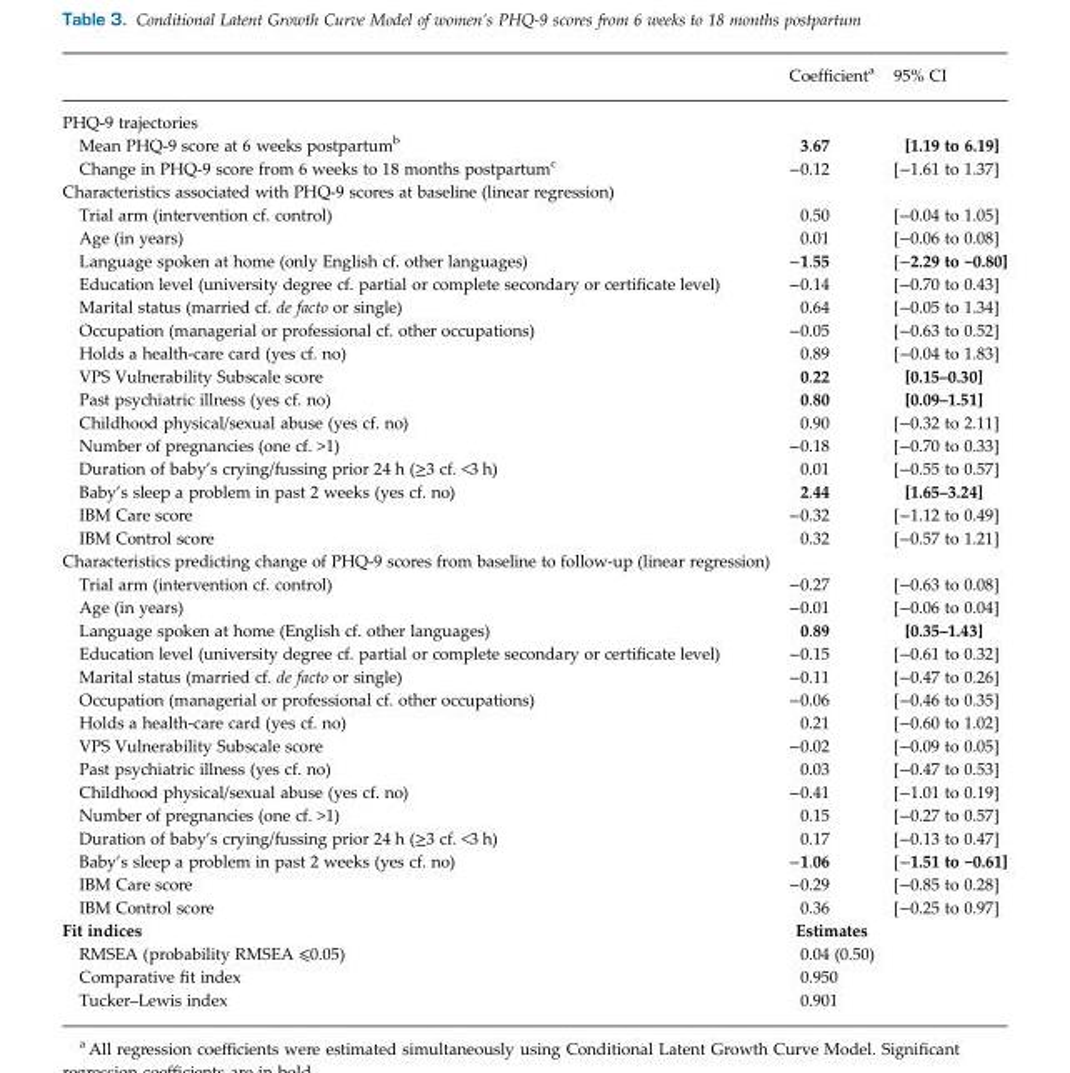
<table><thead><tr><td></td><td>Coefficient<sup>a</sup></td><td>95% CI</td></tr></thead><tbody><tr><td colspan="3">PHQ-9 trajectories</td></tr><tr><td>Mean PHQ-9 score at 6 weeks postpartum<sup>b</sup></td><td>3.67</td><td>[1.19 to 6.19]</td></tr><tr><td>Change in PHQ-9 score from 6 weeks to 18 months postpartum<sup>c</sup></td><td>−0.12</td><td>[−1.61 to 1.37]</td></tr><tr><td colspan="3">Characteristics associated with PHQ-9 scores at baseline (linear regression)</td></tr><tr><td>Trial arm (intervention cf. control)</td><td>0.50</td><td>[−0.04 to 1.05]</td></tr><tr><td>Age (in years)</td><td>0.01</td><td>[−0.06 to 0.08]</td></tr><tr><td>Language spoken at home (only English cf. other languages)</td><td>−1.55</td><td>[−2.29 to −0.80]</td></tr><tr><td>Education level (university degree cf. partial or complete secondary or certificate level)</td><td>−0.14</td><td>[−0.70 to 0.43]</td></tr><tr><td>Marital status (married cf. de facto or single)</td><td>0.64</td><td>[−0.05 to 1.34]</td></tr><tr><td>Occupation (managerial or professional cf. other occupations)</td><td>−0.05</td><td>[−0.63 to 0.52]</td></tr><tr><td>Holds a health-care card (yes cf. no)</td><td>0.89</td><td>[−0.04 to 1.83]</td></tr><tr><td>VPS Vulnerability Subscale score</td><td>0.22</td><td>[0.15–0.30]</td></tr><tr><td>Past psychiatric illness (yes cf. no)</td><td>0.80</td><td>[0.09–1.51]</td></tr><tr><td>Childhood physical/sexual abuse (yes cf. no)</td><td>0.90</td><td>[−0.32 to 2.11]</td></tr><tr><td>Number of pregnancies (one cf. &gt;1)</td><td>−0.18</td><td>[−0.70 to 0.33]</td></tr><tr><td>Duration of baby’s crying/fussing prior 24 h (≥3 cf. &lt;3 h)</td><td>0.01</td><td>[−0.55 to 0.57]</td></tr><tr><td>Baby’s sleep a problem in past 2 weeks (yes cf. no)</td><td>2.44</td><td>[1.65–3.24]</td></tr><tr><td>IBM Care score</td><td>−0.32</td><td>[−1.12 to 0.49]</td></tr><tr><td>IBM Control score</td><td>0.32</td><td>[−0.57 to 1.21]</td></tr><tr><td colspan="3">Characteristics predicting change of PHQ-9 scores from baseline to follow-up (linear regression)</td></tr><tr><td>Trial arm (intervention cf. control)</td><td>−0.27</td><td>[−0.63 to 0.08]</td></tr><tr><td>Age (in years)</td><td>−0.01</td><td>[−0.06 to 0.04]</td></tr><tr><td>Language spoken at home (English cf. other languages)</td><td>0.89</td><td>[0.35–1.43]</td></tr><tr><td>Education level (university degree cf. partial or complete secondary or certificate level)</td><td>−0.15</td><td>[−0.61 to 0.32]</td></tr><tr><td>Marital status (married cf. de facto or single)</td><td>−0.11</td><td>[−0.47 to 0.26]</td></tr><tr><td>Occupation (managerial or professional cf. other occupations)</td><td>−0.06</td><td>[−0.46 to 0.35]</td></tr><tr><td>Holds a health-care card (yes cf. no)</td><td>0.21</td><td>[−0.60 to 1.02]</td></tr><tr><td>VPS Vulnerability Subscale score</td><td>−0.02</td><td>[−0.09 to 0.05]</td></tr><tr><td>Past psychiatric illness (yes cf. no)</td><td>0.03</td><td>[−0.47 to 0.53]</td></tr><tr><td>Childhood physical/sexual abuse (yes cf. no)</td><td>−0.41</td><td>[−1.01 to 0.19]</td></tr><tr><td>Number of pregnancies (one cf. &gt;1)</td><td>0.15</td><td>[−0.27 to 0.57]</td></tr><tr><td>Duration of baby’s crying/fussing prior 24 h (≥3 cf. &lt;3 h)</td><td>0.17</td><td>[−0.13 to 0.47]</td></tr><tr><td>Baby’s sleep a problem in past 2 weeks (yes cf. no)</td><td>−1.06</td><td>[−1.51 to −0.61]</td></tr><tr><td>IBM Care score</td><td>−0.29</td><td>[−0.85 to 0.28]</td></tr><tr><td>IBM Control score</td><td>0.36</td><td>[−0.25 to 0.97]</td></tr><tr><td>Fit indices</td><td>Estimates</td><td></td></tr><tr><td>RMSEA (probability RMSEA ⩽0.05)</td><td>0.04 (0.50)</td><td></td></tr><tr><td>Comparative fit index</td><td>0.950</td><td></td></tr><tr><td>Tucker–Lewis index</td><td>0.901</td><td></td></tr></tbody></table>